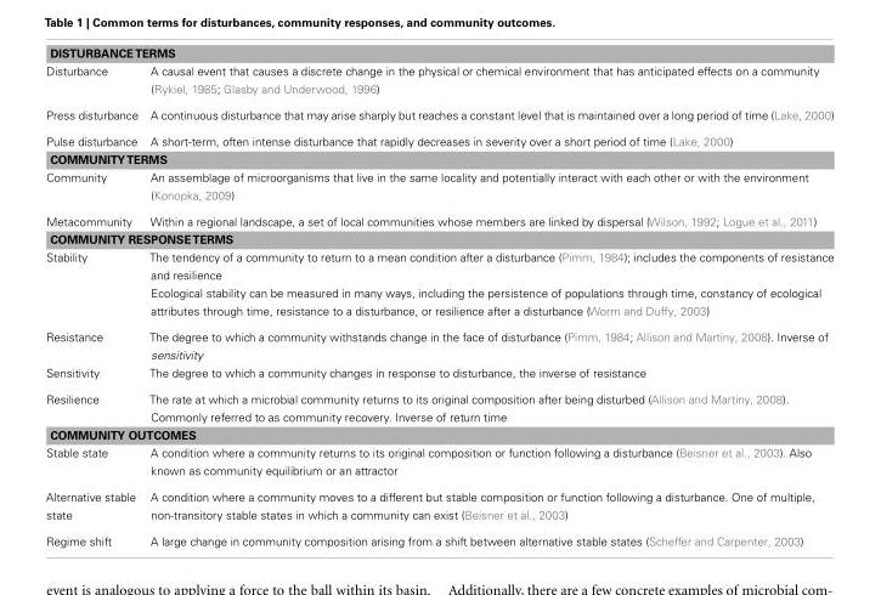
<table><tbody><tr><td colspan="2">DISTURBANCETERMS</td></tr><tr><td>Disturbance</td><td>A causal event that causes a discrete change in the physical or chemical environment that has anticipated effects on a community (Rykiel, 1985; Glasby and Underwood, 1996)</td></tr><tr><td>Press disturbance</td><td>A continuous disturbance that may arise sharply but reaches a constant level that is maintained over a long period of time (Lake, 2000)</td></tr><tr><td>Pulse disturbance</td><td>A short-term, often intense disturbance that rapidly decreases in severity over a short period of time (Lake, 2000)</td></tr><tr><td colspan="2">COMMUNITYTERMS</td></tr><tr><td>Community</td><td>An assemblage of microorganisms that live in the same locality and potentially interact with each other or with the environment (Konopka, 2009)</td></tr><tr><td>Metacommunity</td><td>Within a regional landscape, a set of local communities whose members are linked by dispersal (Wilson, 1992; Logue et al., 2011)</td></tr><tr><td colspan="2">COMMUNITY RESPONSETERMS</td></tr><tr><td rowspan="2">Stability</td><td>The tendency of a community to return to a mean condition after a disturbance (Pimm, 1984); includes the components of resistance and resilience</td></tr><tr><td>Ecological stability can be measured in many ways, including the persistence of populations through time, constancy of ecological attributes through time, resistance to a disturbance, or resilience after a disturbance (Worm and Duffy, 2003)</td></tr><tr><td>Resistance</td><td>The degree to which a community withstands change in the face of disturbance (Pimm, 1984; Allison and Martiny, 2008). Inverse of sensitivity</td></tr><tr><td>Sensitivity</td><td>The degree to which a community changes in response to disturbance, the inverse of resistance</td></tr><tr><td>Resilience</td><td>The rate at which a microbial community returns to its original composition after being disturbed (Allison and Martiny, 2008). Commonly referred to as community recovery. Inverse of return time</td></tr><tr><td colspan="2">COMMUNITY OUTCOMES</td></tr><tr><td>Stable state</td><td>A condition where a community returns to its original composition or function following a disturbance (Beisner et al., 2003). Also known as community equilibrium or an attractor</td></tr><tr><td>Alternative stable state</td><td>A condition where a community moves to a different but stable composition or function following a disturbance. One of multiple, non-transitory stable states in which a community can exist (Beisner et al., 2003)</td></tr><tr><td>Regime shift</td><td>A large change in community composition arising from a shift between alternative stable states (Scheffer and Carpenter, 2003)</td></tr></tbody></table>